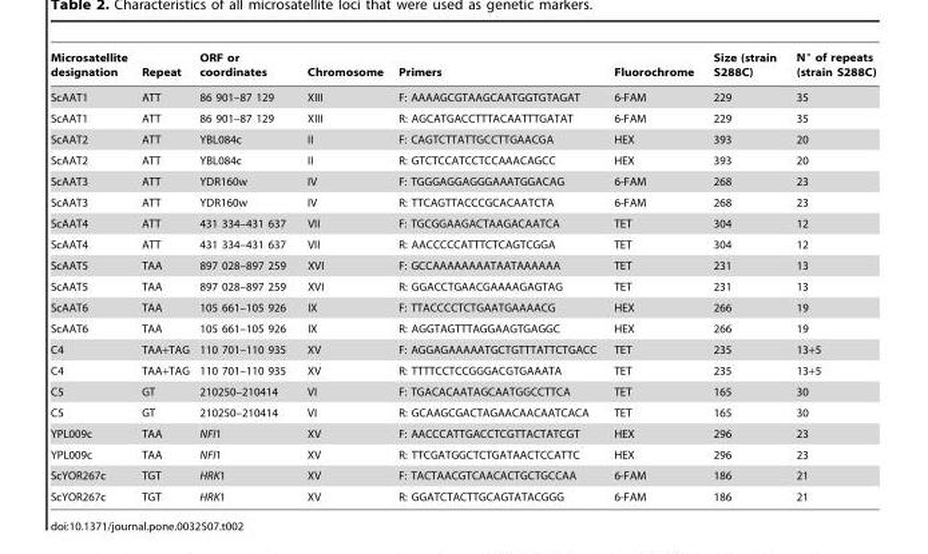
<table><thead><tr><td>Microsatellite designation</td><td>Repeat</td><td>ORF or coordinates</td><td>Chromosome</td><td>Primers</td><td>Fluorochrome</td><td>Size (strain S288C)</td><td>N° of repeats (strain S288C)</td></tr></thead><tbody><tr><td>ScAAT1</td><td>ATT</td><td>86 901–87 129</td><td>XIII</td><td>F: AAAAGCGTAAGCAATGGTGTAGAT</td><td>6-FAM</td><td>229</td><td>35</td></tr><tr><td>ScAAT1</td><td>ATT</td><td>86 901–87 129</td><td>XIII</td><td>R: AGCATGACCTTTACAATTTGATAT</td><td>6-FAM</td><td>229</td><td>35</td></tr><tr><td>ScAAT2</td><td>ATT</td><td>YBL084c</td><td>II</td><td>F: CAGTCTTATTGCCTTGAACGA</td><td>HEX</td><td>393</td><td>20</td></tr><tr><td>ScAAT2</td><td>ATT</td><td>YBL084c</td><td>II</td><td>R: GTCTCCATCCTCCAAACAGCC</td><td>HEX</td><td>393</td><td>20</td></tr><tr><td>ScAAT3</td><td>ATT</td><td>YDR160w</td><td>IV</td><td>F: TGGGAGGAGGGAAATGGACAG</td><td>6-FAM</td><td>268</td><td>23</td></tr><tr><td>ScAAT3</td><td>ATT</td><td>YDR160w</td><td>IV</td><td>R: TTCAGTTACCCGCACAATCTA</td><td>6-FAM</td><td>268</td><td>23</td></tr><tr><td>ScAAT4</td><td>ATT</td><td>431 334–431 637</td><td>VII</td><td>F: TGCGGAAGACTAAGACAATCA</td><td>TET</td><td>304</td><td>12</td></tr><tr><td>ScAAT4</td><td>ATT</td><td>431 334–431 637</td><td>VII</td><td>R: AACCCCCATTTCTCAGTCGGA</td><td>TET</td><td>304</td><td>12</td></tr><tr><td>ScAAT5</td><td>TAA</td><td>897 028–897 259</td><td>XVI</td><td>F: GCCAAAAAAAATAATAAAAAA</td><td>TET</td><td>231</td><td>13</td></tr><tr><td>ScAAT5</td><td>TAA</td><td>897 028–897 259</td><td>XVI</td><td>R: GGACCTGAACGAAAAGAGTAG</td><td>TET</td><td>231</td><td>13</td></tr><tr><td>ScAAT6</td><td>TAA</td><td>105 661–105 926</td><td>IX</td><td>F: TTACCCCTCTGAATGAAAACG</td><td>HEX</td><td>266</td><td>19</td></tr><tr><td>ScAAT6</td><td>TAA</td><td>105 661–105 926</td><td>IX</td><td>R: AGGTAGTTTAGGAAGTGAGGC</td><td>HEX</td><td>266</td><td>19</td></tr><tr><td>C4</td><td>TAA+TAG</td><td>110 701–110 935</td><td>XV</td><td>F: AGGAGAAAAATGCTGTTTATTCTGACC</td><td>TET</td><td>235</td><td>13+5</td></tr><tr><td>C4</td><td>TAA+TAG</td><td>110 701–110 935</td><td>XV</td><td>R: TTTTCCTCCGGGACGTGAAATA</td><td>TET</td><td>235</td><td>13+5</td></tr><tr><td>C5</td><td>GT</td><td>210250–210414</td><td>VI</td><td>F: TGACACAATAGCAATGGCCTTCA</td><td>TET</td><td>165</td><td>30</td></tr><tr><td>C5</td><td>GT</td><td>210250–210414</td><td>VI</td><td>R: GCAAGCGACTAGAACAACAATCACA</td><td>TET</td><td>165</td><td>30</td></tr><tr><td>YPL009c</td><td>TAA</td><td>NFI1</td><td>XV</td><td>F: AACCCATTGACCTCGTTACTATCGT</td><td>HEX</td><td>296</td><td>23</td></tr><tr><td>YPL009c</td><td>TAA</td><td>NFI1</td><td>XV</td><td>R: TTCGATGGCTCTGATAACTCCATTC</td><td>HEX</td><td>296</td><td>23</td></tr><tr><td>ScYOR267c</td><td>TGT</td><td>HRK1</td><td>XV</td><td>F: TACTAACGTCAACACTGCTGCCAA</td><td>6-FAM</td><td>186</td><td>21</td></tr><tr><td>ScYOR267c</td><td>TGT</td><td>HRK1</td><td>XV</td><td>R: GGATCTACTTGCAGTATACGGG</td><td>6-FAM</td><td>186</td><td>21</td></tr></tbody></table>